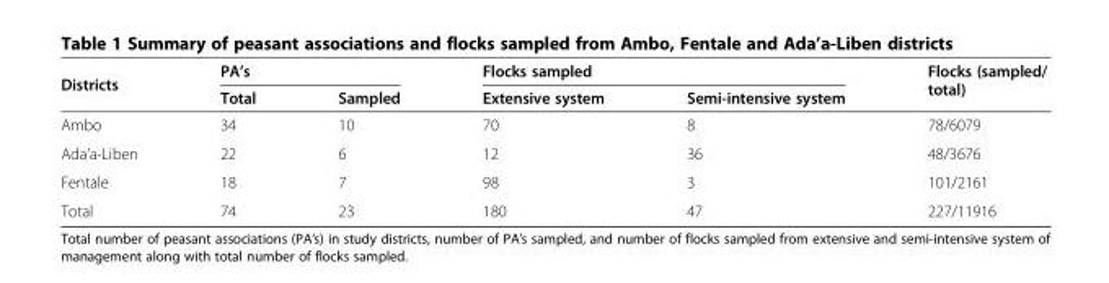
<table><thead><tr><td rowspan="2">Districts</td><td colspan="2">PA’s</td><td colspan="2">Flocks sampled</td><td rowspan="2">Flocks (sampled/ total)</td></tr><tr><td>Total</td><td>Sampled</td><td>Extensive system</td><td>Semi-intensive system</td></tr></thead><tbody><tr><td>Ambo</td><td>34</td><td>10</td><td>70</td><td>8</td><td>78/6079</td></tr><tr><td>Ada’a-Liben</td><td>22</td><td>6</td><td>12</td><td>36</td><td>48/3676</td></tr><tr><td>Fentale</td><td>18</td><td>7</td><td>98</td><td>3</td><td>101/2161</td></tr><tr><td>Total</td><td>74</td><td>23</td><td>180</td><td>47</td><td>227/11916</td></tr></tbody></table>